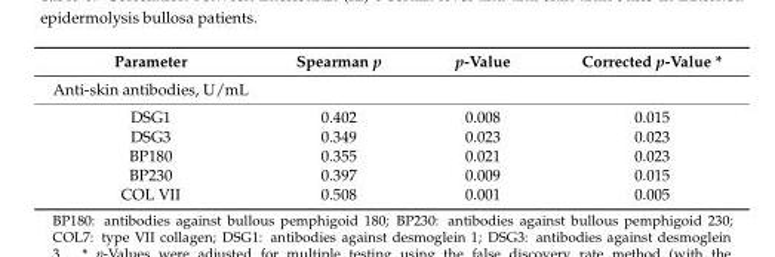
<table><thead><tr><td>Parameter</td><td>Spearman p</td><td>p-Value</td><td>Corrected p-Value *</td></tr></thead><tbody><tr><td colspan="4">Anti-skin antibodies, U/mL</td></tr><tr><td>DSG1</td><td>0.402</td><td>0.008</td><td>0.015</td></tr><tr><td>DSG3</td><td>0.349</td><td>0.023</td><td>0.023</td></tr><tr><td>BP180</td><td>0.355</td><td>0.021</td><td>0.023</td></tr><tr><td>BP230</td><td>0.397</td><td>0.009</td><td>0.015</td></tr><tr><td>COL VII</td><td>0.508</td><td>0.001</td><td>0.005</td></tr></tbody></table>